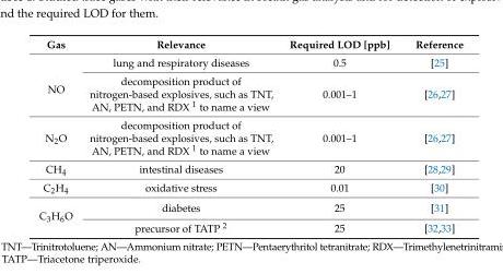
<table><thead><tr><td>Gas</td><td>Relevance</td><td>Required LOD [ppb]</td><td>Reference</td></tr></thead><tbody><tr><td rowspan="2">NO</td><td>lung and respiratory diseases</td><td>0.5</td><td>[25]</td></tr><tr><td>decomposition product of nitrogen-based explosives, such as TNT, AN, PETN, and RDX <sup>1</sup> to name a view</td><td>0.001–1</td><td>[26,27]</td></tr><tr><td>N<sub>2</sub>O</td><td>decomposition product of nitrogen-based explosives, such as TNT, AN, PETN, and RDX <sup>1</sup> to name a view</td><td>0.001–1</td><td>[26,27]</td></tr><tr><td>CH<sub>4</sub></td><td>intestinal diseases</td><td>20</td><td>[28,29]</td></tr><tr><td>C<sub>2</sub>H<sub>4</sub></td><td>oxidative stress</td><td>0.01</td><td>[30]</td></tr><tr><td rowspan="2">C<sub>3</sub>H<sub>6</sub>O</td><td>diabetes</td><td>25</td><td>[31]</td></tr><tr><td>precursor of TATP <sup>2</sup></td><td>25</td><td>[32,33]</td></tr></tbody></table>